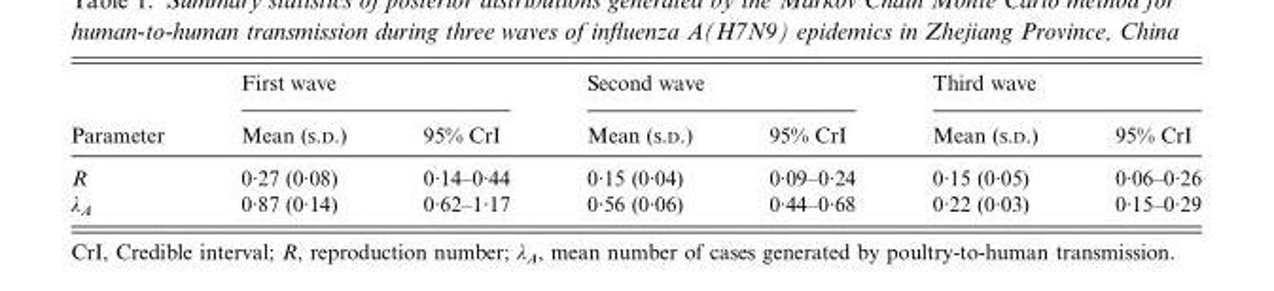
<table><thead><tr><td rowspan="2">Parameter</td><td colspan="2">First wave</td><td colspan="2">Second wave</td><td colspan="2">Third wave</td></tr><tr><td>Mean (S.D.)</td><td>95% CrI</td><td>Mean (S.D.)</td><td>95% CrI</td><td>Mean (S.D.)</td><td>95% CrI</td></tr></thead><tbody><tr><td>R</td><td>0·27 (0·08)</td><td>0·14–0·44</td><td>0·15 (0·04)</td><td>0·09–0·24</td><td>0·15 (0·05)</td><td>0·06–0·26</td></tr><tr><td>λ<sub>A</sub></td><td>0·87 (0·14)</td><td>0·62–1·17</td><td>0·56 (0·06)</td><td>0·44–0·68</td><td>0·22 (0·03)</td><td>0·15–0·29</td></tr></tbody></table>